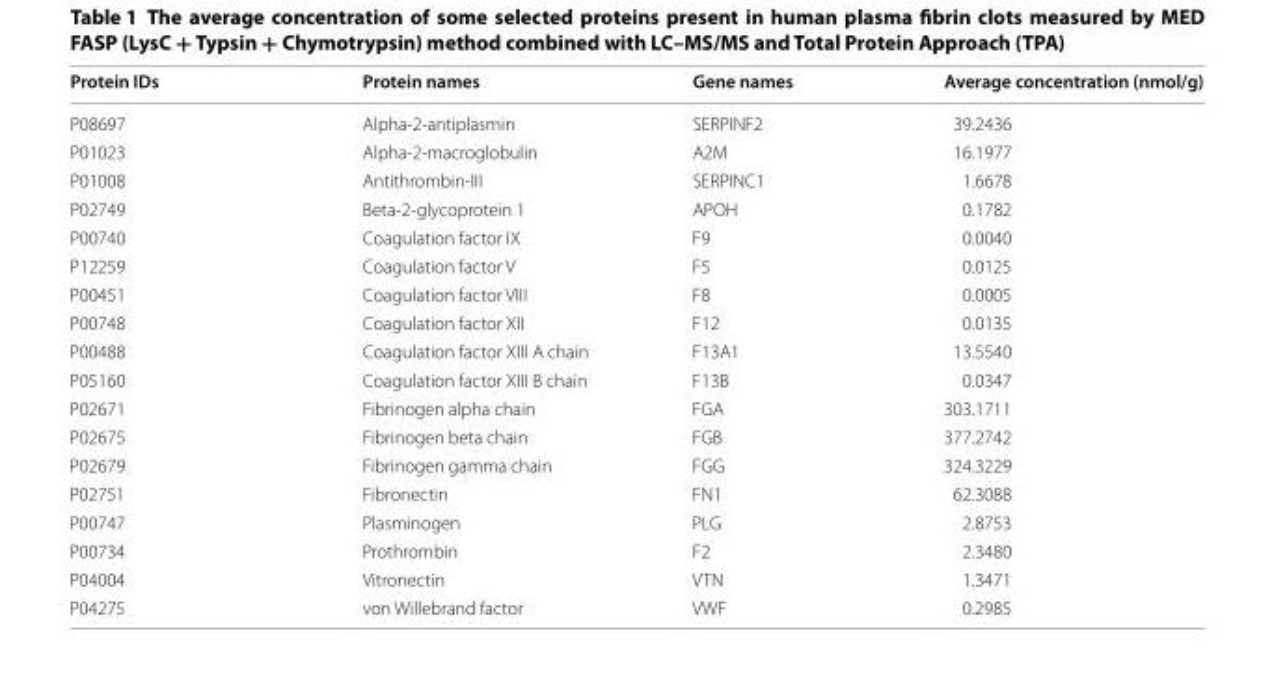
<table><thead><tr><td>Protein IDs</td><td>Protein names</td><td>Gene names</td><td>Average concentration (nmol/g)</td></tr></thead><tbody><tr><td>P08697</td><td>Alpha-2-antiplasmin</td><td>SERPINF2</td><td>39.2436</td></tr><tr><td>P01023</td><td>Alpha-2-macroglobulin</td><td>A2M</td><td>16.1977</td></tr><tr><td>P01008</td><td>Antithrombin-III</td><td>SERPINC1</td><td>1.6678</td></tr><tr><td>P02749</td><td>Beta-2-glycoprotein 1</td><td>APOH</td><td>0.1782</td></tr><tr><td>P00740</td><td>Coagulation factor IX</td><td>F9</td><td>0.0040</td></tr><tr><td>P12259</td><td>Coagulation factor V</td><td>F5</td><td>0.0125</td></tr><tr><td>P00451</td><td>Coagulation factor VIII</td><td>F8</td><td>0.0005</td></tr><tr><td>P00748</td><td>Coagulation factor XII</td><td>F12</td><td>0.0135</td></tr><tr><td>P00488</td><td>Coagulation factor XIII A chain</td><td>F13A1</td><td>13.5540</td></tr><tr><td>P05160</td><td>Coagulation factor XIII B chain</td><td>F13B</td><td>0.0347</td></tr><tr><td>P02671</td><td>Fibrinogen alpha chain</td><td>FGA</td><td>303.1711</td></tr><tr><td>P02675</td><td>Fibrinogen beta chain</td><td>FGB</td><td>377.2742</td></tr><tr><td>P02679</td><td>Fibrinogen gamma chain</td><td>FGG</td><td>324.3229</td></tr><tr><td>P02751</td><td>Fibronectin</td><td>FN1</td><td>62.3088</td></tr><tr><td>P00747</td><td>Plasminogen</td><td>PLG</td><td>2.8753</td></tr><tr><td>P00734</td><td>Prothrombin</td><td>F2</td><td>2.3480</td></tr><tr><td>P04004</td><td>Vitronectin</td><td>VTN</td><td>1.3471</td></tr><tr><td>P04275</td><td>von Willebrand factor</td><td>VWF</td><td>0.2985</td></tr></tbody></table>